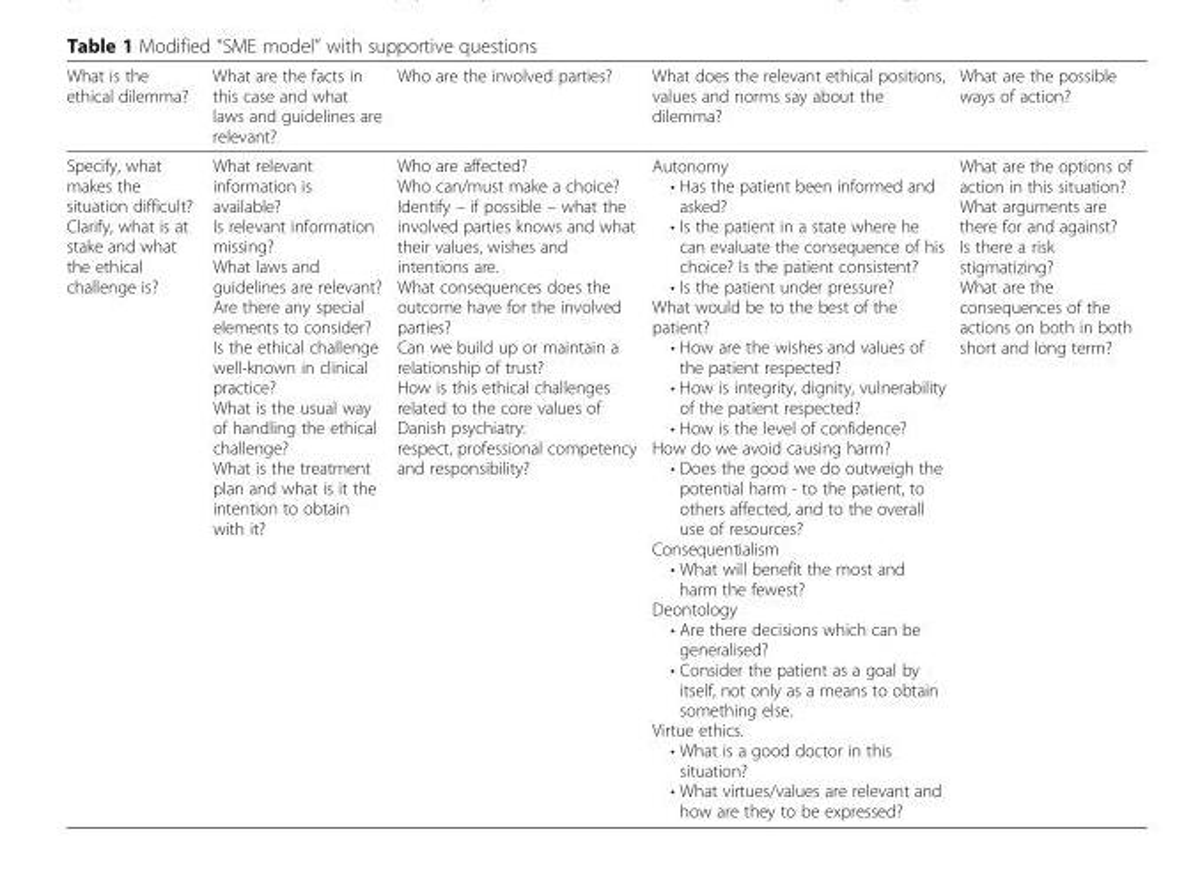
<table><thead><tr><td>What is the ethical dilemma?</td><td>What are the facts in this case and what laws and guidelines are relevant?</td><td>Who are the involved parties?</td><td>What does the relevant ethical positions, values and norms say about the dilemma?</td><td>What are the possible ways of action?</td></tr></thead><tbody><tr><td>Specify, what makes the situation difficult? Clarify, what is at stake and what the ethical challenge is?</td><td>What relevant information is available? Is relevant information missing? What laws and guidelines are relevant? Are there any special elements to consider? Is the ethical challenge well-known in clinical practice? What is the usual way of handling the ethical challenge? What is the treatment plan and what is it the intention to obtain with it?</td><td>Who are affected? Who can/must make a choice? Identify – if possible – what the involved parties knows and what their values, wishes and intentions are. What consequences does the outcome have for the involved parties? Can we build up or maintain a relationship of trust? How is this ethical challenges related to the core values of Danish psychiatry: respect, professional competency and responsibility?</td><td>Autonomy • Has the patient been informed and asked? • Is the patient in a state where he can evaluate the consequence of his choice? Is the patient consistent? • Is the patient under pressure? What would be to the best of the patient? • How are the wishes and values of the patient respected? • How is integrity, dignity, vulnerability of the patient respected? • How is the level of confidence? How do we avoid causing harm? • Does the good we do outweigh the potential harm - to the patient, to others affected, and to the overall use of resources? Consequentialism • What will benefit the most and harm the fewest? Deontology • Are there decisions which can be generalised? • Consider the patient as a goal by itself, not only as a means to obtain something else. Virtue ethics. • What is a good doctor in this situation? • What virtues/values are relevant and how are they to be expressed?</td><td>What are the options of action in this situation? What arguments are there for and against? Is there a risk stigmatizing? What are the consequences of the actions on both in both short and long term?</td></tr></tbody></table>